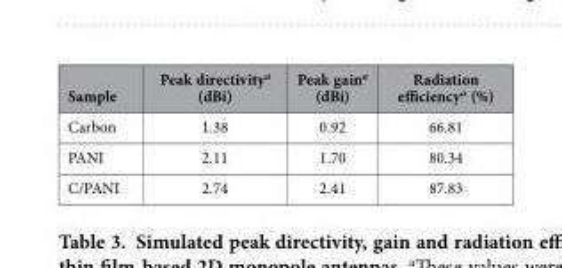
<table><thead><tr><td>Sample</td><td>Peak directivity<sup>a</sup> (dBi)</td><td>Peak gain<sup>a</sup> (dBi)</td><td>Radiation efficiency<sup>a</sup> (%)</td></tr></thead><tbody><tr><td>Carbon</td><td>1.38</td><td>0.92</td><td>66.81</td></tr><tr><td>PANI</td><td>2.11</td><td>1.70</td><td>80.34</td></tr><tr><td>C/PANI</td><td>2.74</td><td>2.41</td><td>87.83</td></tr></tbody></table>